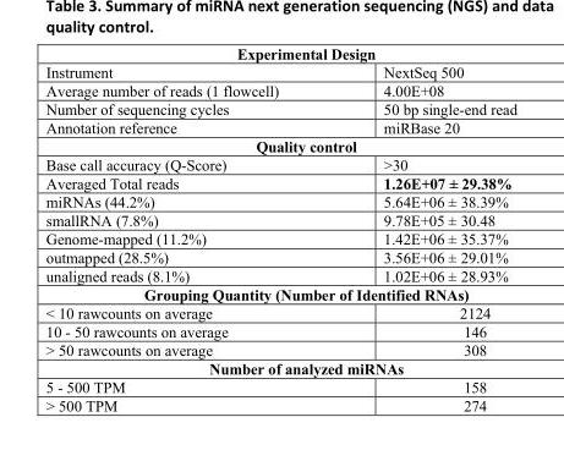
<table><tbody><tr><td colspan="2">Experimental Design</td></tr><tr><td>Instrument</td><td>NextSeq 500</td></tr><tr><td>Average number of reads (1 flowcell)</td><td>4.00E+08</td></tr><tr><td>Number of sequencing cycles</td><td>50 bp single-end read</td></tr><tr><td>Annotation reference</td><td>miRBase 20</td></tr><tr><td colspan="2">Quality control</td></tr><tr><td>Base call accuracy (Q-Score)</td><td>&gt;30</td></tr><tr><td>Averaged Total reads</td><td>1.26E+07 ± 29.38%</td></tr><tr><td>miRNAs (44.2%)</td><td>5.64E+06 ± 38.39%</td></tr><tr><td>smallRNA (7.8%)</td><td>9.78E+05 ± 30.48</td></tr><tr><td>Genome-mapped (11.2%)</td><td>1.42E+06 ± 35.37%</td></tr><tr><td>outmapped (28.5%)</td><td>3.56E+06 ± 29.01%</td></tr><tr><td>unaligned reads (8.1%)</td><td>1.02E+06 ± 28.93%</td></tr><tr><td colspan="2">Grouping Quantity (Number of Identified RNAs)</td></tr><tr><td>&lt; 10 rawcounts on average</td><td>2124</td></tr><tr><td>10 - 50 rawcounts on average</td><td>146</td></tr><tr><td>&gt; 50 rawcounts on average</td><td>308</td></tr><tr><td colspan="2">Number of analyzed miRNAs</td></tr><tr><td>5 - 500 TPM</td><td>158</td></tr><tr><td>&gt; 500 TPM</td><td>274</td></tr></tbody></table>